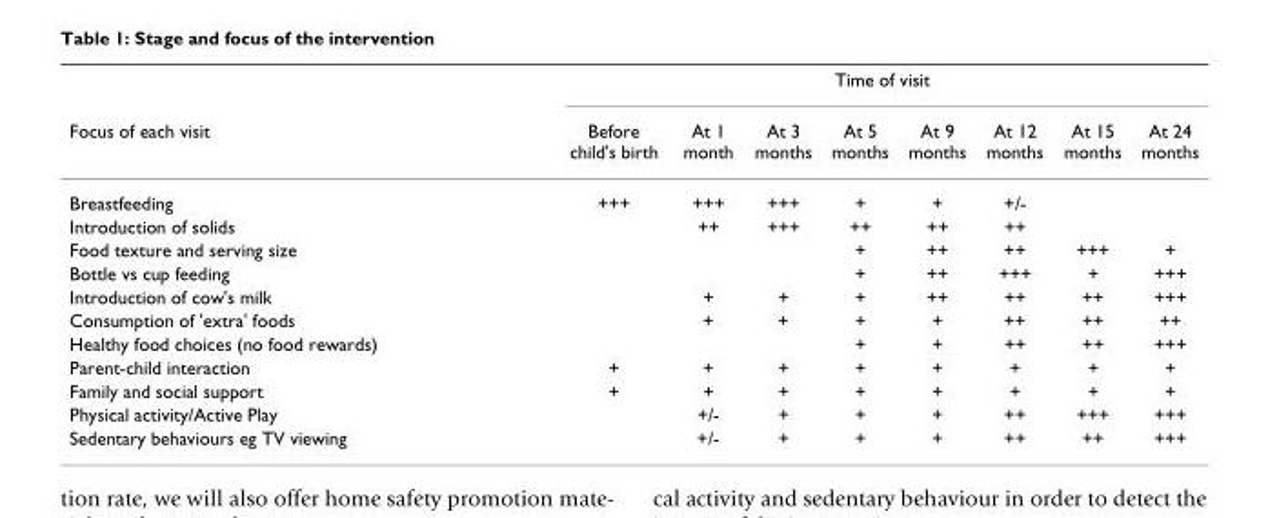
<table><thead><tr><td rowspan="2">Focus of each visit</td><td colspan="8">Time of visit</td></tr><tr><td>Before child&#x27;s birth</td><td>At 1 month</td><td>At 3 months</td><td>At 5 months</td><td>At 9 months</td><td>At 12 months</td><td>At 15 months</td><td>At 24 months</td></tr></thead><tbody><tr><td>Breastfeeding</td><td>+++</td><td>+++</td><td>+++</td><td>+</td><td>+</td><td>+/-</td><td></td><td></td></tr><tr><td>Introduction of solids</td><td></td><td>++</td><td>+++</td><td>++</td><td>++</td><td>++</td><td></td><td></td></tr><tr><td>Food texture and serving size</td><td></td><td></td><td></td><td>+</td><td>++</td><td>++</td><td>+++</td><td>+</td></tr><tr><td>Bottle vs cup feeding</td><td></td><td></td><td></td><td>+</td><td>++</td><td>+++</td><td>+</td><td>+++</td></tr><tr><td>Introduction of cow&#x27;s milk</td><td></td><td>+</td><td>+</td><td>+</td><td>++</td><td>++</td><td>++</td><td>+++</td></tr><tr><td>Consumption of &#x27;extra&#x27; foods</td><td></td><td>+</td><td>+</td><td>+</td><td>+</td><td>++</td><td>++</td><td>++</td></tr><tr><td>Healthy food choices (no food rewards)</td><td></td><td></td><td></td><td>+</td><td>+</td><td>++</td><td>++</td><td>+++</td></tr><tr><td>Parent-child interaction</td><td>+</td><td>+</td><td>+</td><td>+</td><td>+</td><td>+</td><td>+</td><td>+</td></tr><tr><td>Family and social support</td><td>+</td><td>+</td><td>+</td><td>+</td><td>+</td><td>+</td><td>+</td><td>+</td></tr><tr><td>Physical activity/Active Play</td><td></td><td>+/-</td><td>+</td><td>+</td><td>+</td><td>++</td><td>+++</td><td>+++</td></tr><tr><td>Sedentary behaviours eg TV viewing</td><td></td><td>+/-</td><td>+</td><td>+</td><td>+</td><td>++</td><td>++</td><td>+++</td></tr></tbody></table>